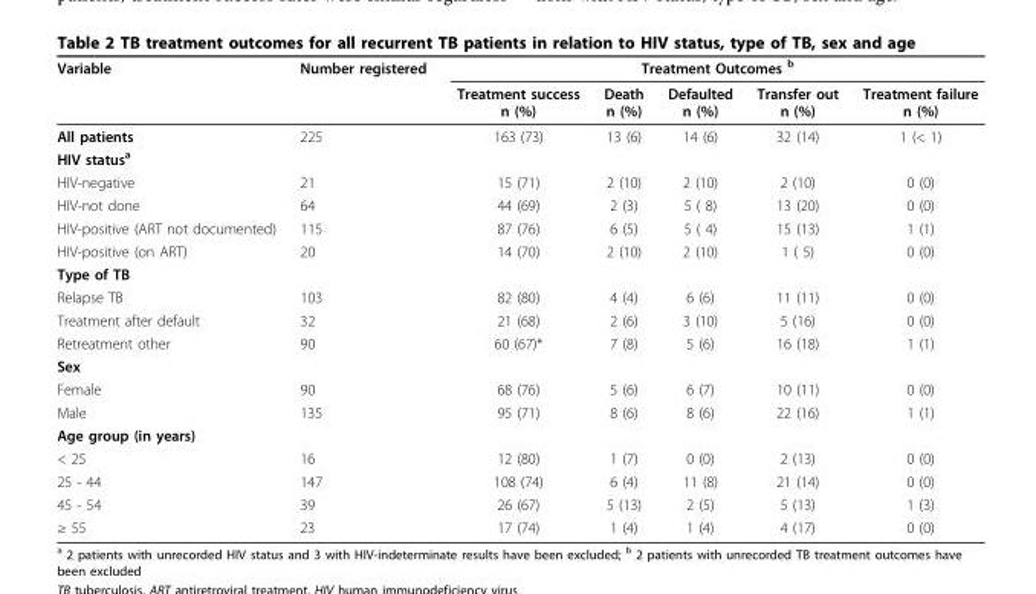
<table><thead><tr><td rowspan="2">Variable</td><td rowspan="2">Number registered</td><td colspan="5">Treatment Outcomes <sup>b</sup></td></tr><tr><td>Treatment success n (%)</td><td>Death n (%)</td><td>Defaulted n (%)</td><td>Transfer out n (%)</td><td>Treatment failure n (%)</td></tr></thead><tbody><tr><td>All patients</td><td>225</td><td>163 (73)</td><td>13 (6)</td><td>14 (6)</td><td>32 (14)</td><td>1 (&lt; 1)</td></tr><tr><td colspan="7">HIV status<sup>a</sup></td></tr><tr><td>HIV-negative</td><td>21</td><td>15 (71)</td><td>2 (10)</td><td>2 (10)</td><td>2 (10)</td><td>0 (0)</td></tr><tr><td>HIV-not done</td><td>64</td><td>44 (69)</td><td>2 (3)</td><td>5 ( 8)</td><td>13 (20)</td><td>0 (0)</td></tr><tr><td>HIV-positive (ART not documented)</td><td>115</td><td>87 (76)</td><td>6 (5)</td><td>5 ( 4)</td><td>15 (13)</td><td>1 (1)</td></tr><tr><td>HIV-positive (on ART)</td><td>20</td><td>14 (70)</td><td>2 (10)</td><td>2 (10)</td><td>1 ( 5)</td><td>0 (0)</td></tr><tr><td colspan="7">Type of TB</td></tr><tr><td>Relapse TB</td><td>103</td><td>82 (80)</td><td>4 (4)</td><td>6 (6)</td><td>11 (11)</td><td>0 (0)</td></tr><tr><td>Treatment after default</td><td>32</td><td>21 (68)</td><td>2 (6)</td><td>3 (10)</td><td>5 (16)</td><td>0 (0)</td></tr><tr><td>Retreatment other</td><td>90</td><td>60 (67)*</td><td>7 (8)</td><td>5 (6)</td><td>16 (18)</td><td>1 (1)</td></tr><tr><td colspan="7">Sex</td></tr><tr><td>Female</td><td>90</td><td>68 (76)</td><td>5 (6)</td><td>6 (7)</td><td>10 (11)</td><td>0 (0)</td></tr><tr><td>Male</td><td>135</td><td>95 (71)</td><td>8 (6)</td><td>8 (6)</td><td>22 (16)</td><td>1 (1)</td></tr><tr><td colspan="7">Age group (in years)</td></tr><tr><td>&lt; 25</td><td>16</td><td>12 (80)</td><td>1 (7)</td><td>0 (0)</td><td>2 (13)</td><td>0 (0)</td></tr><tr><td>25 - 44</td><td>147</td><td>108 (74)</td><td>6 (4)</td><td>11 (8)</td><td>21 (14)</td><td>0 (0)</td></tr><tr><td>45 - 54</td><td>39</td><td>26 (67)</td><td>5 (13)</td><td>2 (5)</td><td>5 (13)</td><td>1 (3)</td></tr><tr><td>≥ 55</td><td>23</td><td>17 (74)</td><td>1 (4)</td><td>1 (4)</td><td>4 (17)</td><td>0 (0)</td></tr></tbody></table>